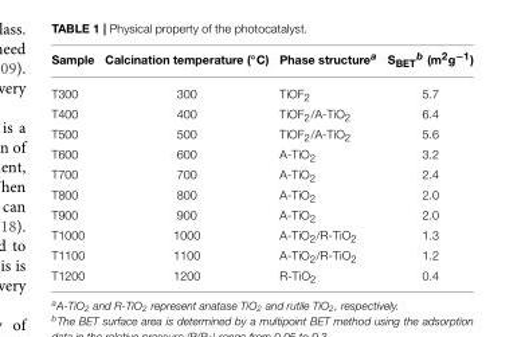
<table><thead><tr><td>Sample</td><td>Calcination temperature (◦C)</td><td>Phase structure<sup>a</sup></td><td>S<sub>BET</sub><sup>b</sup> (m<sup>2</sup>g<sup>−1</sup>)</td></tr></thead><tbody><tr><td>T300</td><td>300</td><td>TiOF<sub>2</sub></td><td>5.7</td></tr><tr><td>T400</td><td>400</td><td>TiOF<sub>2</sub>/A-TiO<sub>2</sub></td><td>6.4</td></tr><tr><td>T500</td><td>500</td><td>TiOF<sub>2</sub>/A-TiO<sub>2</sub></td><td>5.6</td></tr><tr><td>T600</td><td>600</td><td>A-TiO<sub>2</sub></td><td>3.2</td></tr><tr><td>T700</td><td>700</td><td>A-TiO<sub>2</sub></td><td>2.4</td></tr><tr><td>T800</td><td>800</td><td>A-TiO<sub>2</sub></td><td>2.0</td></tr><tr><td>T900</td><td>900</td><td>A-TiO<sub>2</sub></td><td>2.0</td></tr><tr><td>T1000</td><td>1000</td><td>A-TiO<sub>2</sub>/R-TiO<sub>2</sub></td><td>1.3</td></tr><tr><td>T1100</td><td>1100</td><td>A-TiO<sub>2</sub>/R-TiO<sub>2</sub></td><td>1.2</td></tr><tr><td>T1200</td><td>1200</td><td>R-TiO<sub>2</sub></td><td>0.4</td></tr></tbody></table>